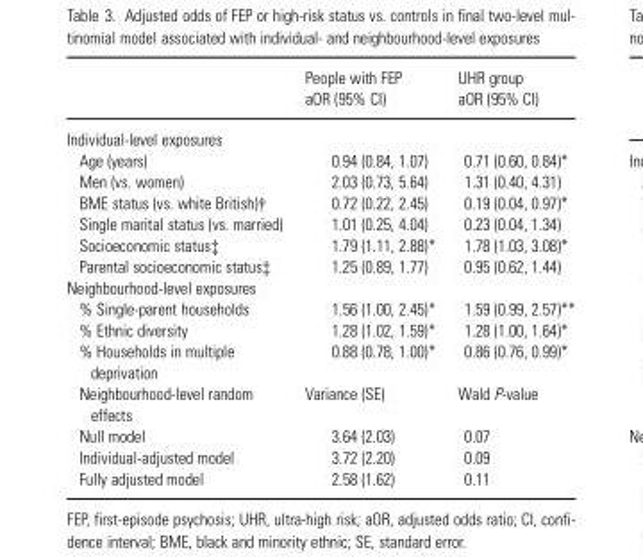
<table><thead><tr><td></td><td>People with FEP aOR (95% CI)</td><td>UHR group aOR (95% CI)</td></tr></thead><tbody><tr><td colspan="3">Individual-level exposures</td></tr><tr><td>Age (years)</td><td>0.94 (0.84, 1.07)</td><td>0.71 (0.60, 0.84)*</td></tr><tr><td>Men (vs. women)</td><td>2.03 (0.73, 5.64)</td><td>1.31 (0.40, 4.31)</td></tr><tr><td>BME status (vs. white British)†</td><td>0.72 (0.22, 2.45)</td><td>0.19 (0.04, 0.97)*</td></tr><tr><td>Single marital status (vs. married)</td><td>1.01 (0.25, 4.04)</td><td>0.23 (0.04, 1.34)</td></tr><tr><td>Socioeconomic status‡</td><td>1.79 (1.11, 2.88)*</td><td>1.78 (1.03, 3.08)*</td></tr><tr><td>Parental socioeconomic status‡</td><td>1.25 (0.89, 1.77)</td><td>0.95 (0.62, 1.44)</td></tr><tr><td colspan="3">Neighbourhood-level exposures</td></tr><tr><td>% Single-parent households</td><td>1.56 (1.00, 2.45)*</td><td>1.59 (0.99, 2.57)**</td></tr><tr><td>% Ethnic diversity</td><td>1.28 (1.02, 1.59)*</td><td>1.28 (1.00, 1.64)*</td></tr><tr><td>% Households in multiple deprivation</td><td>0.88 (0.78, 1.00)*</td><td>0.86 (0.76, 0.99)*</td></tr><tr><td>Neighbourhood-level random effects</td><td>Variance (SE)</td><td>Wald P-value</td></tr><tr><td>Null model</td><td>3.64 (2.03)</td><td>0.07</td></tr><tr><td>Individual-adjusted model</td><td>3.72 (2.20)</td><td>0.09</td></tr><tr><td>Fully adjusted model</td><td>2.58 (1.62)</td><td>0.11</td></tr></tbody></table>